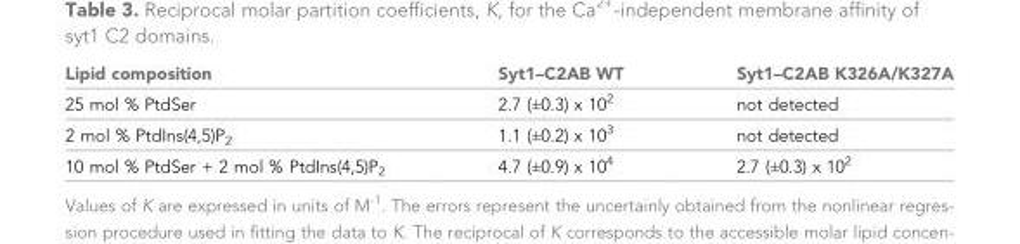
<table><thead><tr><td>Lipid composition</td><td>Syt1–C2AB WT</td><td>Syt1–C2AB K326A/K327A</td></tr></thead><tbody><tr><td>25 mol % PtdSer</td><td>2.7 (±0.3) x 10<sup>2</sup></td><td>not detected</td></tr><tr><td>2 mol % PtdIns(4,5)P<sub>2</sub></td><td>1.1 (±0.2) x 10<sup>3</sup></td><td>not detected</td></tr><tr><td>10 mol % PtdSer + 2 mol % PtdIns(4,5)P<sub>2</sub></td><td>4.7 (±0.9) x 10<sup>4</sup></td><td>2.7 (±0.3) x 10<sup>2</sup></td></tr></tbody></table>